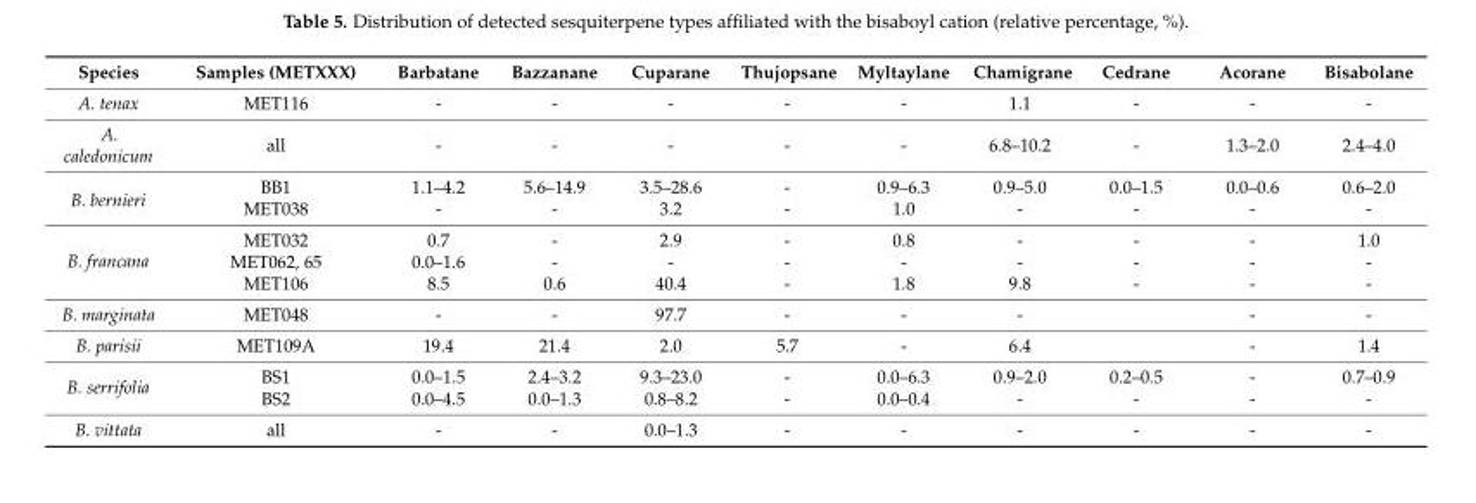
<table><thead><tr><td>Species</td><td>Samples (METXXX)</td><td>Barbatane</td><td>Bazzanane</td><td>Cuparane</td><td>Thujopsane</td><td>Myltaylane</td><td>Chamigrane</td><td>Cedrane</td><td>Acorane</td><td>Bisabolane</td></tr></thead><tbody><tr><td>A. tenax</td><td>MET116</td><td>-</td><td>-</td><td>-</td><td>-</td><td>-</td><td>1.1</td><td>-</td><td>-</td><td>-</td></tr><tr><td>A. caledonicum</td><td>all</td><td>-</td><td>-</td><td>-</td><td>-</td><td>-</td><td>6.8–10.2</td><td>-</td><td>1.3–2.0</td><td>2.4–4.0</td></tr><tr><td rowspan="2">B. bernieri</td><td>BB1</td><td>1.1–4.2</td><td>5.6–14.9</td><td>3.5–28.6</td><td>-</td><td>0.9–6.3</td><td>0.9–5.0</td><td>0.0–1.5</td><td>0.0–0.6</td><td>0.6–2.0</td></tr><tr><td>MET038</td><td>-</td><td>-</td><td>3.2</td><td>-</td><td>1.0</td><td>-</td><td>-</td><td>-</td><td>-</td></tr><tr><td rowspan="3">B. francana</td><td>MET032</td><td>0.7</td><td>-</td><td>2.9</td><td>-</td><td>0.8</td><td>-</td><td>-</td><td>-</td><td>1.0</td></tr><tr><td>MET062, 65</td><td>0.0–1.6</td><td>-</td><td>-</td><td>-</td><td>-</td><td>-</td><td>-</td><td>-</td><td>-</td></tr><tr><td>MET106</td><td>8.5</td><td>0.6</td><td>40.4</td><td>-</td><td>1.8</td><td>9.8</td><td>-</td><td>-</td><td>-</td></tr><tr><td>B. marginata</td><td>MET048</td><td>-</td><td>-</td><td>97.7</td><td>-</td><td>-</td><td>-</td><td></td><td>-</td><td>-</td></tr><tr><td>B. parisii</td><td>MET109A</td><td>19.4</td><td>21.4</td><td>2.0</td><td>5.7</td><td>-</td><td>6.4</td><td></td><td>-</td><td>1.4</td></tr><tr><td rowspan="2">B. serrifolia</td><td>BS1</td><td>0.0–1.5</td><td>2.4–3.2</td><td>9.3–23.0</td><td>-</td><td>0.0–6.3</td><td>0.9–2.0</td><td>0.2–0.5</td><td>-</td><td>0.7–0.9</td></tr><tr><td>BS2</td><td>0.0–4.5</td><td>0.0–1.3</td><td>0.8–8.2</td><td>-</td><td>0.0–0.4</td><td>-</td><td>-</td><td>-</td><td>-</td></tr><tr><td>B. vittata</td><td>all</td><td>-</td><td>-</td><td>0.0–1.3</td><td>-</td><td>-</td><td>-</td><td>-</td><td>-</td><td>-</td></tr></tbody></table>